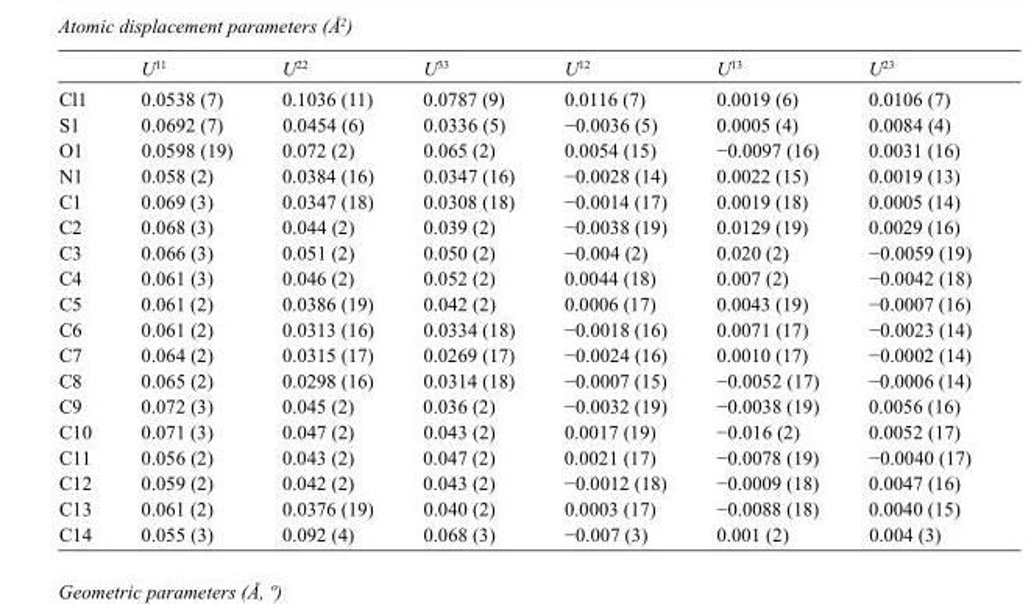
<table><thead><tr><td></td><td>U<sup>11</sup></td><td>U<sup>22</sup></td><td>U<sup>33</sup></td><td>U<sup>12</sup></td><td>U<sup>13</sup></td><td>U<sup>23</sup></td></tr></thead><tbody><tr><td>Cl1</td><td>0.0538 (7)</td><td>0.1036 (11)</td><td>0.0787 (9)</td><td>0.0116 (7)</td><td>0.0019 (6)</td><td>0.0106 (7)</td></tr><tr><td>S1</td><td>0.0692 (7)</td><td>0.0454 (6)</td><td>0.0336 (5)</td><td>−0.0036 (5)</td><td>0.0005 (4)</td><td>0.0084 (4)</td></tr><tr><td>O1</td><td>0.0598 (19)</td><td>0.072 (2)</td><td>0.065 (2)</td><td>0.0054 (15)</td><td>−0.0097 (16)</td><td>0.0031 (16)</td></tr><tr><td>N1</td><td>0.058 (2)</td><td>0.0384 (16)</td><td>0.0347 (16)</td><td>−0.0028 (14)</td><td>0.0022 (15)</td><td>0.0019 (13)</td></tr><tr><td>C1</td><td>0.069 (3)</td><td>0.0347 (18)</td><td>0.0308 (18)</td><td>−0.0014 (17)</td><td>0.0019 (18)</td><td>0.0005 (14)</td></tr><tr><td>C2</td><td>0.068 (3)</td><td>0.044 (2)</td><td>0.039 (2)</td><td>−0.0038 (19)</td><td>0.0129 (19)</td><td>0.0029 (16)</td></tr><tr><td>C3</td><td>0.066 (3)</td><td>0.051 (2)</td><td>0.050 (2)</td><td>−0.004 (2)</td><td>0.020 (2)</td><td>−0.0059 (19)</td></tr><tr><td>C4</td><td>0.061 (3)</td><td>0.046 (2)</td><td>0.052 (2)</td><td>0.0044 (18)</td><td>0.007 (2)</td><td>−0.0042 (18)</td></tr><tr><td>C5</td><td>0.061 (2)</td><td>0.0386 (19)</td><td>0.042 (2)</td><td>0.0006 (17)</td><td>0.0043 (19)</td><td>−0.0007 (16)</td></tr><tr><td>C6</td><td>0.061 (2)</td><td>0.0313 (16)</td><td>0.0334 (18)</td><td>−0.0018 (16)</td><td>0.0071 (17)</td><td>−0.0023 (14)</td></tr><tr><td>C7</td><td>0.064 (2)</td><td>0.0315 (17)</td><td>0.0269 (17)</td><td>−0.0024 (16)</td><td>0.0010 (17)</td><td>−0.0002 (14)</td></tr><tr><td>C8</td><td>0.065 (2)</td><td>0.0298 (16)</td><td>0.0314 (18)</td><td>−0.0007 (15)</td><td>−0.0052 (17)</td><td>−0.0006 (14)</td></tr><tr><td>C9</td><td>0.072 (3)</td><td>0.045 (2)</td><td>0.036 (2)</td><td>−0.0032 (19)</td><td>−0.0038 (19)</td><td>0.0056 (16)</td></tr><tr><td>C10</td><td>0.071 (3)</td><td>0.047 (2)</td><td>0.043 (2)</td><td>0.0017 (19)</td><td>−0.016 (2)</td><td>0.0052 (17)</td></tr><tr><td>C11</td><td>0.056 (2)</td><td>0.043 (2)</td><td>0.047 (2)</td><td>0.0021 (17)</td><td>−0.0078 (19)</td><td>−0.0040 (17)</td></tr><tr><td>C12</td><td>0.059 (2)</td><td>0.042 (2)</td><td>0.043 (2)</td><td>−0.0012 (18)</td><td>−0.0009 (18)</td><td>0.0047 (16)</td></tr><tr><td>C13</td><td>0.061 (2)</td><td>0.0376 (19)</td><td>0.040 (2)</td><td>0.0003 (17)</td><td>−0.0088 (18)</td><td>0.0040 (15)</td></tr><tr><td>C14</td><td>0.055 (3)</td><td>0.092 (4)</td><td>0.068 (3)</td><td>−0.007 (3)</td><td>0.001 (2)</td><td>0.004 (3)</td></tr></tbody></table>